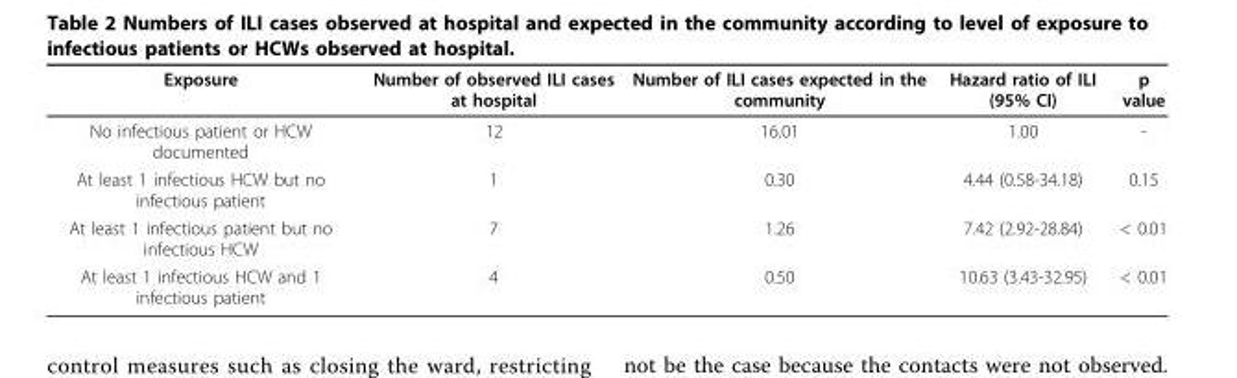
<table><thead><tr><td>Exposure</td><td>Number of observed ILI cases at hospital</td><td>Number of ILI cases expected in the community</td><td>Hazard ratio of ILI (95% CI)</td><td>p value</td></tr></thead><tbody><tr><td>No infectious patient or HCW documented</td><td>12</td><td>16.01</td><td>1.00</td><td>-</td></tr><tr><td>At least 1 infectious HCW but no infectious patient</td><td>1</td><td>0.30</td><td>4.44 (0.58-34.18)</td><td>0.15</td></tr><tr><td>At least 1 infectious patient but no infectious HCW</td><td>7</td><td>1.26</td><td>7.42 (2.92-28.84)</td><td>&lt; 0.01</td></tr><tr><td>At least 1 infectious HCW and 1 infectious patient</td><td>4</td><td>0.50</td><td>10.63 (3.43-32.95)</td><td>&lt; 0.01</td></tr></tbody></table>